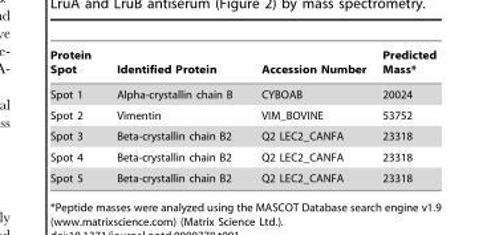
<table><thead><tr><td>Protein Spot</td><td>Identified Protein</td><td>Accession Number</td><td>Predicted Mass*</td></tr></thead><tbody><tr><td>Spot 1</td><td>Alpha-crystallin chain B</td><td>CYBOAB</td><td>20024</td></tr><tr><td>Spot 2</td><td>Vimentin</td><td>VIM_BOVINE</td><td>53752</td></tr><tr><td>Spot 3</td><td>Beta-crystallin chain B2</td><td>Q2 LEC2_CANFA</td><td>23318</td></tr><tr><td>Spot 4</td><td>Beta-crystallin chain B2</td><td>Q2 LEC2_CANFA</td><td>23318</td></tr><tr><td>Spot 5</td><td>Beta-crystallin chain B2</td><td>Q2 LEC2_CANFA</td><td>23318</td></tr></tbody></table>